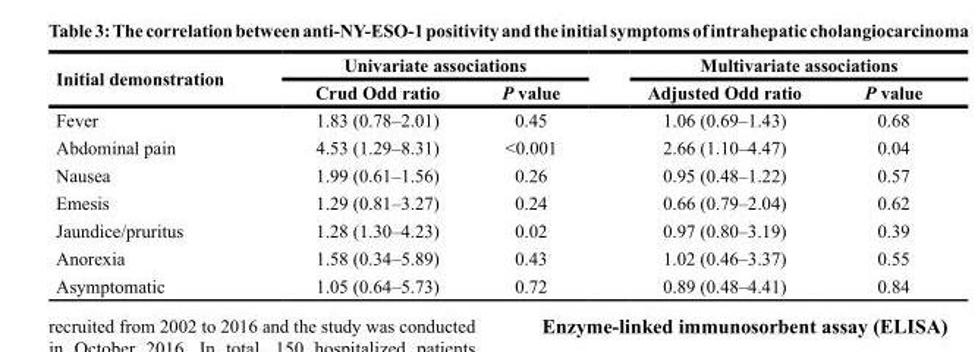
<table><thead><tr><td rowspan="2">Initial demonstration</td><td colspan="2">Univariate associations</td><td colspan="2">Multivariate associations</td></tr><tr><td>Crud Odd ratio</td><td>P value</td><td>Adjusted Odd ratio</td><td>P value</td></tr></thead><tbody><tr><td>Fever</td><td>1.83 (0.78–2.01)</td><td>0.45</td><td>1.06 (0.69–1.43)</td><td>0.68</td></tr><tr><td>Abdominal pain</td><td>4.53 (1.29–8.31)</td><td>&lt;0.001</td><td>2.66 (1.10–4.47)</td><td>0.04</td></tr><tr><td>Nausea</td><td>1.99 (0.61–1.56)</td><td>0.26</td><td>0.95 (0.48–1.22)</td><td>0.57</td></tr><tr><td>Emesis</td><td>1.29 (0.81–3.27)</td><td>0.24</td><td>0.66 (0.79–2.04)</td><td>0.62</td></tr><tr><td>Jaundice/pruritus</td><td>1.28 (1.30–4.23)</td><td>0.02</td><td>0.97 (0.80–3.19)</td><td>0.39</td></tr><tr><td>Anorexia</td><td>1.58 (0.34–5.89)</td><td>0.43</td><td>1.02 (0.46–3.37)</td><td>0.55</td></tr><tr><td>Asymptomatic</td><td>1.05 (0.64–5.73)</td><td>0.72</td><td>0.89 (0.48–4.41)</td><td>0.84</td></tr></tbody></table>